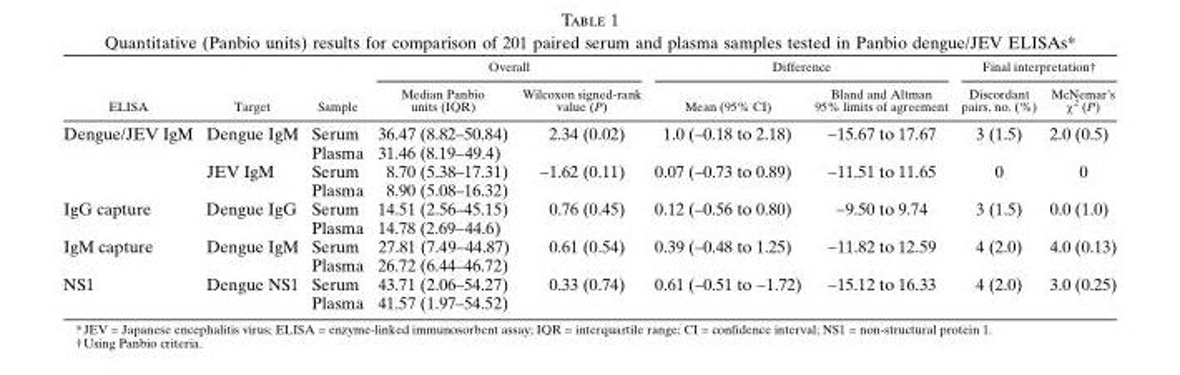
<table><thead><tr><td rowspan="2">ELISA</td><td rowspan="2">Target</td><td rowspan="2">Sample</td><td colspan="2">Overall</td><td colspan="2">Difference</td><td colspan="2">Final interpretation†</td></tr><tr><td>Median Panbio units (IQR)</td><td>Wilcoxon signed-rank value (P)</td><td>Mean (95% CI)</td><td>Bland and Altman 95% limits of agreement</td><td>Discordant pairs, no. (%)</td><td>McNemar’s χ<sup>2</sup> (P)</td></tr></thead><tbody><tr><td rowspan="4">Dengue/JEV IgM</td><td rowspan="2">Dengue IgM</td><td>Serum</td><td>36.47 (8.82–50.84)</td><td rowspan="2">2.34 (0.02)</td><td rowspan="2">1.0 (–0.18 to 2.18)</td><td rowspan="2">−15.67 to 17.67</td><td rowspan="2">3 (1.5)</td><td rowspan="2">2.0 (0.5)</td></tr><tr><td>Plasma</td><td>31.46 (8.19–49.4)</td></tr><tr><td rowspan="2">JEV IgM</td><td>Serum</td><td>8.70 (5.38–17.31)</td><td rowspan="2">−1.62 (0.11)</td><td rowspan="2">0.07 (–0.73 to 0.89)</td><td rowspan="2">−11.51 to 11.65</td><td rowspan="2">0</td><td rowspan="2">0</td></tr><tr><td>Plasma</td><td>8.90 (5.08–16.32)</td></tr><tr><td rowspan="2">IgG capture</td><td rowspan="2">Dengue IgG</td><td>Serum</td><td>14.51 (2.56–45.15)</td><td rowspan="2">0.76 (0.45)</td><td rowspan="2">0.12 (–0.56 to 0.80)</td><td rowspan="2">−9.50 to 9.74</td><td rowspan="2">3 (1.5)</td><td rowspan="2">0.0 (1.0)</td></tr><tr><td>Plasma</td><td>14.78 (2.69–44.6)</td></tr><tr><td rowspan="2">IgM capture</td><td rowspan="2">Dengue IgM</td><td>Serum</td><td>27.81 (7.49–44.87)</td><td rowspan="2">0.61 (0.54)</td><td rowspan="2">0.39 (–0.48 to 1.25)</td><td rowspan="2">−11.82 to 12.59</td><td rowspan="2">4 (2.0)</td><td rowspan="2">4.0 (0.13)</td></tr><tr><td>Plasma</td><td>26.72 (6.44–46.72)</td></tr><tr><td rowspan="2">NS1</td><td rowspan="2">Dengue NS1</td><td>Serum</td><td>43.71 (2.06–54.27)</td><td rowspan="2">0.33 (0.74)</td><td rowspan="2">0.61 (–0.51 to −1.72)</td><td rowspan="2">−15.12 to 16.33</td><td rowspan="2">4 (2.0)</td><td rowspan="2">3.0 (0.25)</td></tr><tr><td>Plasma</td><td>41.57 (1.97–54.52)</td></tr></tbody></table>